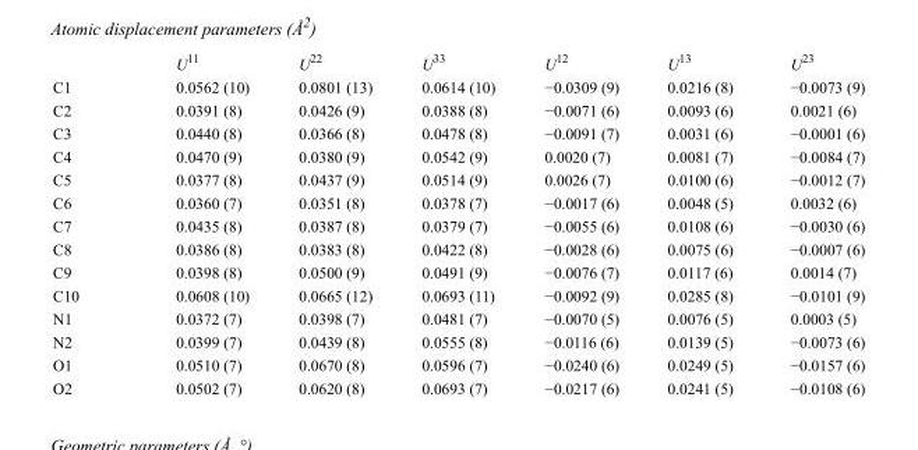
<table><thead><tr><td></td><td>U<sup>11</sup></td><td>U<sup>22</sup></td><td>U<sup>33</sup></td><td>U<sup>12</sup></td><td>U<sup>13</sup></td><td>U<sup>23</sup></td></tr></thead><tbody><tr><td>C1</td><td>0.0562 (10)</td><td>0.0801 (13)</td><td>0.0614 (10)</td><td>−0.0309 (9)</td><td>0.0216 (8)</td><td>−0.0073 (9)</td></tr><tr><td>C2</td><td>0.0391 (8)</td><td>0.0426 (9)</td><td>0.0388 (8)</td><td>−0.0071 (6)</td><td>0.0093 (6)</td><td>0.0021 (6)</td></tr><tr><td>C3</td><td>0.0440 (8)</td><td>0.0366 (8)</td><td>0.0478 (8)</td><td>−0.0091 (7)</td><td>0.0031 (6)</td><td>−0.0001 (6)</td></tr><tr><td>C4</td><td>0.0470 (9)</td><td>0.0380 (9)</td><td>0.0542 (9)</td><td>0.0020 (7)</td><td>0.0081 (7)</td><td>−0.0084 (7)</td></tr><tr><td>C5</td><td>0.0377 (8)</td><td>0.0437 (9)</td><td>0.0514 (9)</td><td>0.0026 (7)</td><td>0.0100 (6)</td><td>−0.0012 (7)</td></tr><tr><td>C6</td><td>0.0360 (7)</td><td>0.0351 (8)</td><td>0.0378 (7)</td><td>−0.0017 (6)</td><td>0.0048 (5)</td><td>0.0032 (6)</td></tr><tr><td>C7</td><td>0.0435 (8)</td><td>0.0387 (8)</td><td>0.0379 (7)</td><td>−0.0055 (6)</td><td>0.0108 (6)</td><td>−0.0030 (6)</td></tr><tr><td>C8</td><td>0.0386 (8)</td><td>0.0383 (8)</td><td>0.0422 (8)</td><td>−0.0028 (6)</td><td>0.0075 (6)</td><td>−0.0007 (6)</td></tr><tr><td>C9</td><td>0.0398 (8)</td><td>0.0500 (9)</td><td>0.0491 (9)</td><td>−0.0076 (7)</td><td>0.0117 (6)</td><td>0.0014 (7)</td></tr><tr><td>C10</td><td>0.0608 (10)</td><td>0.0665 (12)</td><td>0.0693 (11)</td><td>−0.0092 (9)</td><td>0.0285 (8)</td><td>−0.0101 (9)</td></tr><tr><td>N1</td><td>0.0372 (7)</td><td>0.0398 (7)</td><td>0.0481 (7)</td><td>−0.0070 (5)</td><td>0.0076 (5)</td><td>0.0003 (5)</td></tr><tr><td>N2</td><td>0.0399 (7)</td><td>0.0439 (8)</td><td>0.0555 (8)</td><td>−0.0116 (6)</td><td>0.0139 (5)</td><td>−0.0073 (6)</td></tr><tr><td>O1</td><td>0.0510 (7)</td><td>0.0670 (8)</td><td>0.0596 (7)</td><td>−0.0240 (6)</td><td>0.0249 (5)</td><td>−0.0157 (6)</td></tr><tr><td>O2</td><td>0.0502 (7)</td><td>0.0620 (8)</td><td>0.0693 (7)</td><td>−0.0217 (6)</td><td>0.0241 (5)</td><td>−0.0108 (6)</td></tr></tbody></table>